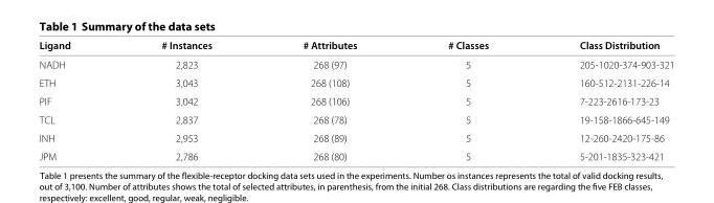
<table><thead><tr><td>Ligand</td><td># Instances</td><td># Attributes</td><td># Classes</td><td>Class Distribution</td></tr></thead><tbody><tr><td>NADH</td><td>2,823</td><td>268 (97)</td><td>5</td><td>205-1020-374-903-321</td></tr><tr><td>ETH</td><td>3,043</td><td>268 (108)</td><td>5</td><td>160-512-2131-226-14</td></tr><tr><td>PIF</td><td>3,042</td><td>268 (106)</td><td>5</td><td>7-223-2616-173-23</td></tr><tr><td>TCL</td><td>2,837</td><td>268 (78)</td><td>5</td><td>19-158-1866-645-149</td></tr><tr><td>INH</td><td>2,953</td><td>268 (89)</td><td>5</td><td>12-260-2420-175-86</td></tr><tr><td>JPM</td><td>2,786</td><td>268 (80)</td><td>5</td><td>5-201-1835-323-421</td></tr></tbody></table>